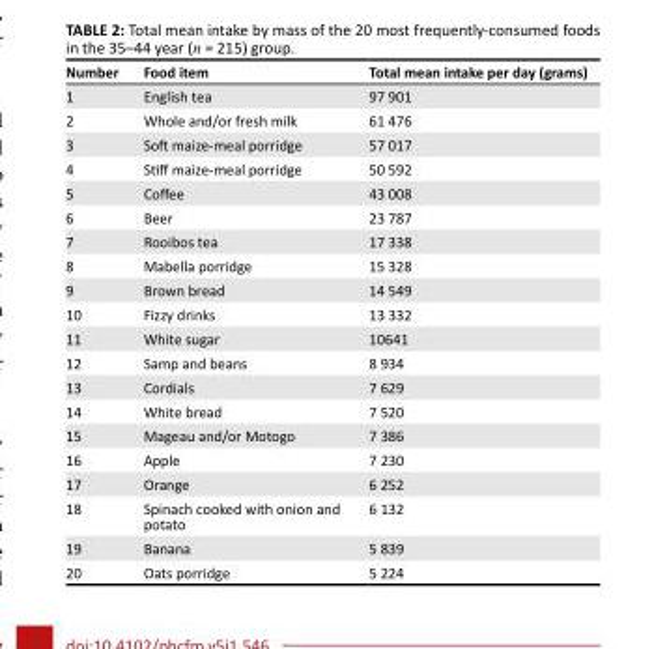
<table><thead><tr><td>Number</td><td>Food item</td><td>Total mean intake per day (grams)</td></tr></thead><tbody><tr><td>1</td><td>English tea</td><td>97 901</td></tr><tr><td>2</td><td>Whole and/or fresh milk</td><td>61 476</td></tr><tr><td>3</td><td>Soft maize-meal porridge</td><td>57 017</td></tr><tr><td>4</td><td>Stiff maize-meal porridge</td><td>50 592</td></tr><tr><td>5</td><td>Coffee</td><td>43 008</td></tr><tr><td>6</td><td>Beer</td><td>23 787</td></tr><tr><td>7</td><td>Rooibos tea</td><td>17 338</td></tr><tr><td>8</td><td>Mabella porridge</td><td>15 328</td></tr><tr><td>9</td><td>Brown bread</td><td>14 549</td></tr><tr><td>10</td><td>Fizzy drinks</td><td>13 332</td></tr><tr><td>11</td><td>White sugar</td><td>10641</td></tr><tr><td>12</td><td>Samp and beans</td><td>8 934</td></tr><tr><td>13</td><td>Cordials</td><td>7 629</td></tr><tr><td>14</td><td>White bread</td><td>7 520</td></tr><tr><td>15</td><td>Mageau and/or Motogo</td><td>7 386</td></tr><tr><td>16</td><td>Apple</td><td>7 230</td></tr><tr><td>17</td><td>Orange</td><td>6 252</td></tr><tr><td>18</td><td>Spinach cooked with onion and potato</td><td>6 132</td></tr><tr><td>19</td><td>Banana</td><td>5 839</td></tr><tr><td>20</td><td>Oats porridge</td><td>5 224</td></tr></tbody></table>